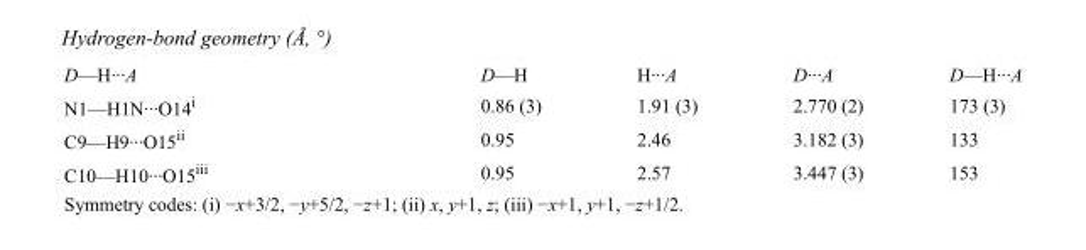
<table><tbody><tr><td>D—H···A</td><td>D—H</td><td>H···A</td><td>D···A</td><td>D—H···A</td></tr><tr><td>N1—H1N···O14<sup>i</sup></td><td>0.86 (3)</td><td>1.91 (3)</td><td>2.770 (2)</td><td>173 (3)</td></tr><tr><td>C9—H9···O15<sup>ii</sup></td><td>0.95</td><td>2.46</td><td>3.182 (3)</td><td>133</td></tr><tr><td>C10—H10···O15<sup>iii</sup></td><td>0.95</td><td>2.57</td><td>3.447 (3)</td><td>153</td></tr></tbody></table>